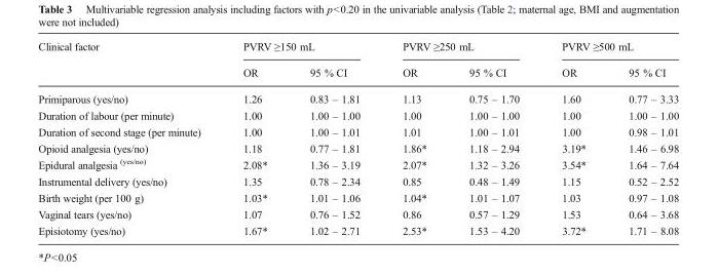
<table><thead><tr><td rowspan="2">Clinical factor</td><td colspan="2">PVRV ≥150 mL</td><td colspan="2">PVRV ≥250 mL</td><td colspan="2">PVRV ≥500 mL</td></tr><tr><td>OR</td><td>95 % CI</td><td>OR</td><td>95 % CI</td><td>OR</td><td>95 % CI</td></tr></thead><tbody><tr><td>Primiparous (yes/no)</td><td>1.26</td><td>0.83 – 1.81</td><td>1.13</td><td>0.75 – 1.70</td><td>1.60</td><td>0.77 – 3.33</td></tr><tr><td>Duration of labour (per minute)</td><td>1.00</td><td>1.00 – 1.00</td><td>1.00</td><td>1.00 – 1.00</td><td>1.00</td><td>1.00 – 1.00</td></tr><tr><td>Duration of second stage (per minute)</td><td>1.00</td><td>1.00 – 1.01</td><td>1.01</td><td>1.00 – 1.01</td><td>1.00</td><td>0.98 – 1.01</td></tr><tr><td>Opioid analgesia (yes/no)</td><td>1.18</td><td>0.77 – 1.81</td><td>1.86*</td><td>1.18 – 2.94</td><td>3.19*</td><td>1.46 – 6.98</td></tr><tr><td>Epidural analgesia <sup>(yes/no)</sup></td><td>2.08*</td><td>1.36 – 3.19</td><td>2.07*</td><td>1.32 – 3.26</td><td>3.54*</td><td>1.64 – 7.64</td></tr><tr><td>Instrumental delivery (yes/no)</td><td>1.35</td><td>0.78 – 2.34</td><td>0.85</td><td>0.48 – 1.49</td><td>1.15</td><td>0.52 – 2.52</td></tr><tr><td>Birth weight (per 100 g)</td><td>1.03*</td><td>1.01 – 1.06</td><td>1.04*</td><td>1.01 – 1.07</td><td>1.03</td><td>0.97 – 1.08</td></tr><tr><td>Vaginal tears (yes/no)</td><td>1.07</td><td>0.76 – 1.52</td><td>0.86</td><td>0.57 – 1.29</td><td>1.53</td><td>0.64 – 3.68</td></tr><tr><td>Episiotomy (yes/no)</td><td>1.67*</td><td>1.02 – 2.71</td><td>2.53*</td><td>1.53 – 4.20</td><td>3.72*</td><td>1.71 – 8.08</td></tr></tbody></table>